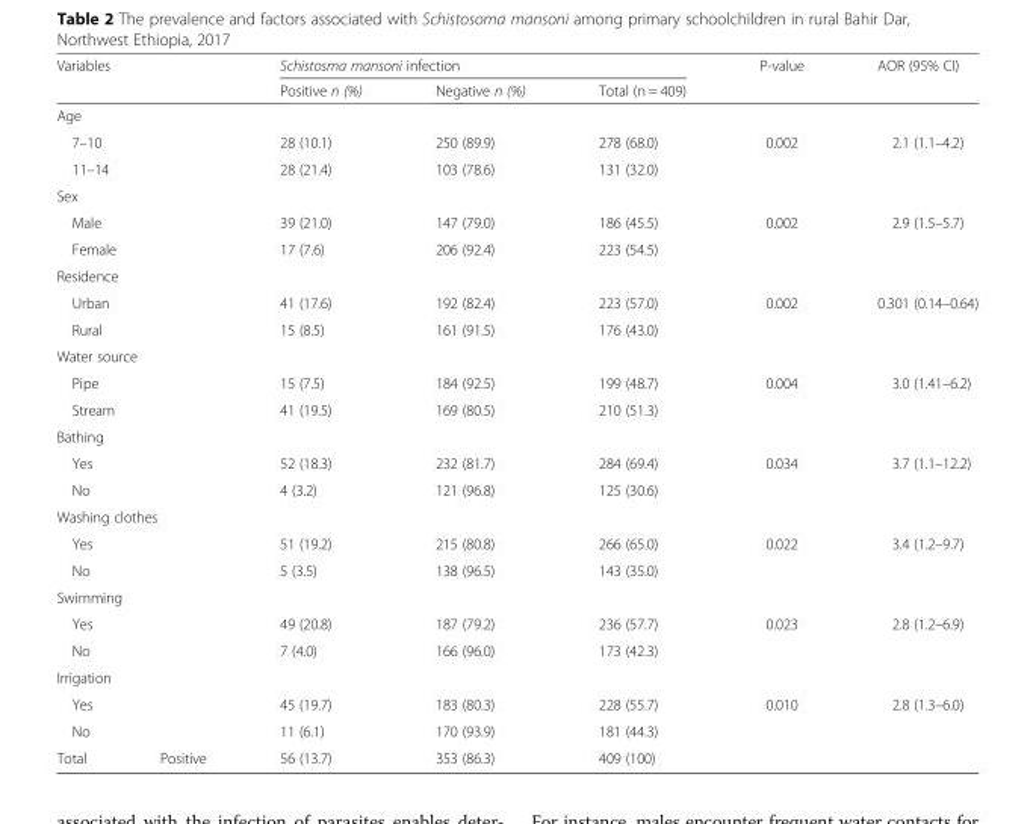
<table><thead><tr><td rowspan="2" colspan="2">Variables</td><td colspan="3">Schistosma mansoni infection</td><td rowspan="2">P-value</td><td rowspan="2">AOR (95% CI)</td></tr><tr><td>Positive n (%)</td><td>Negative n (%)</td><td>Total (n = 409)</td></tr></thead><tbody><tr><td colspan="7">Age</td></tr><tr><td colspan="2">7–10</td><td>28 (10.1)</td><td>250 (89.9)</td><td>278 (68.0)</td><td>0.002</td><td>2.1 (1.1–4.2)</td></tr><tr><td colspan="2">11–14</td><td>28 (21.4)</td><td>103 (78.6)</td><td>131 (32.0)</td><td></td><td></td></tr><tr><td colspan="7">Sex</td></tr><tr><td colspan="2">Male</td><td>39 (21.0)</td><td>147 (79.0)</td><td>186 (45.5)</td><td>0.002</td><td>2.9 (1.5–5.7)</td></tr><tr><td colspan="2">Female</td><td>17 (7.6)</td><td>206 (92.4)</td><td>223 (54.5)</td><td></td><td></td></tr><tr><td colspan="7">Residence</td></tr><tr><td colspan="2">Urban</td><td>41 (17.6)</td><td>192 (82.4)</td><td>223 (57.0)</td><td>0.002</td><td>0.301 (0.14–0.64)</td></tr><tr><td colspan="2">Rural</td><td>15 (8.5)</td><td>161 (91.5)</td><td>176 (43.0)</td><td></td><td></td></tr><tr><td colspan="7">Water source</td></tr><tr><td colspan="2">Pipe</td><td>15 (7.5)</td><td>184 (92.5)</td><td>199 (48.7)</td><td>0.004</td><td>3.0 (1.41–6.2)</td></tr><tr><td colspan="2">Stream</td><td>41 (19.5)</td><td>169 (80.5)</td><td>210 (51.3)</td><td></td><td></td></tr><tr><td colspan="7">Bathing</td></tr><tr><td colspan="2">Yes</td><td>52 (18.3)</td><td>232 (81.7)</td><td>284 (69.4)</td><td>0.034</td><td>3.7 (1.1–12.2)</td></tr><tr><td colspan="2">No</td><td>4 (3.2)</td><td>121 (96.8)</td><td>125 (30.6)</td><td></td><td></td></tr><tr><td colspan="7">Washing clothes</td></tr><tr><td colspan="2">Yes</td><td>51 (19.2)</td><td>215 (80.8)</td><td>266 (65.0)</td><td>0.022</td><td>3.4 (1.2–9.7)</td></tr><tr><td colspan="2">No</td><td>5 (3.5)</td><td>138 (96.5)</td><td>143 (35.0)</td><td></td><td></td></tr><tr><td colspan="7">Swimming</td></tr><tr><td colspan="2">Yes</td><td>49 (20.8)</td><td>187 (79.2)</td><td>236 (57.7)</td><td>0.023</td><td>2.8 (1.2–6.9)</td></tr><tr><td colspan="2">No</td><td>7 (4.0)</td><td>166 (96.0)</td><td>173 (42.3)</td><td></td><td></td></tr><tr><td colspan="7">Irrigation</td></tr><tr><td colspan="2">Yes</td><td>45 (19.7)</td><td>183 (80.3)</td><td>228 (55.7)</td><td>0.010</td><td>2.8 (1.3–6.0)</td></tr><tr><td colspan="2">No</td><td>11 (6.1)</td><td>170 (93.9)</td><td>181 (44.3)</td><td></td><td></td></tr><tr><td>Total</td><td>Positive</td><td>56 (13.7)</td><td>353 (86.3)</td><td>409 (100)</td><td></td><td></td></tr></tbody></table>